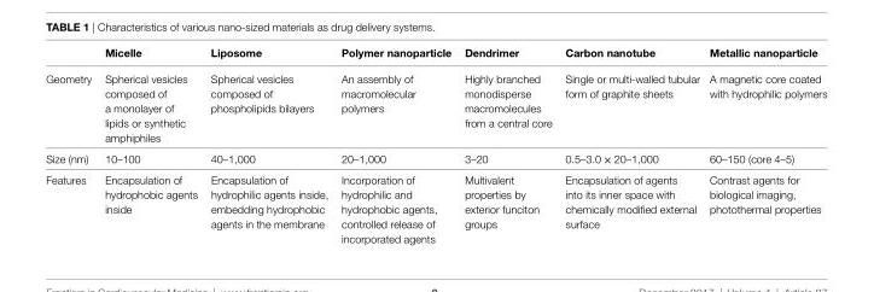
<table><thead><tr><td></td><td>Micelle</td><td>Liposome</td><td>Polymer nanoparticle</td><td>Dendrimer</td><td>Carbon nanotube</td><td>Metallic nanoparticle</td></tr></thead><tbody><tr><td>Geometry</td><td>Spherical vesicles composed of a monolayer of lipids or synthetic amphiphiles</td><td>Spherical vesicles composed of phospholipids bilayers</td><td>An assembly of macromolecular polymers</td><td>Highly branched monodisperse macromolecules from a central core</td><td>Single or multi-walled tubular form of graphite sheets</td><td>A magnetic core coated with hydrophilic polymers</td></tr><tr><td>Size (nm)</td><td>10–100</td><td>40–1,000</td><td>20–1,000</td><td>3–20</td><td>0.5–3.0 × 20–1,000</td><td>60–150 (core 4–5)</td></tr><tr><td>Features</td><td>Encapsulation of hydrophobic agents inside</td><td>Encapsulation of hydrophilic agents inside, embedding hydrophobic agents in the membrane</td><td>Incorporation of hydrophilic and hydrophobic agents, controlled release of incorporated agents</td><td>Multivalent properties by exterior funciton groups</td><td>Encapsulation of agents into its inner space with chemically modified external surface</td><td>Contrast agents for biological imaging, photothermal properties</td></tr></tbody></table>